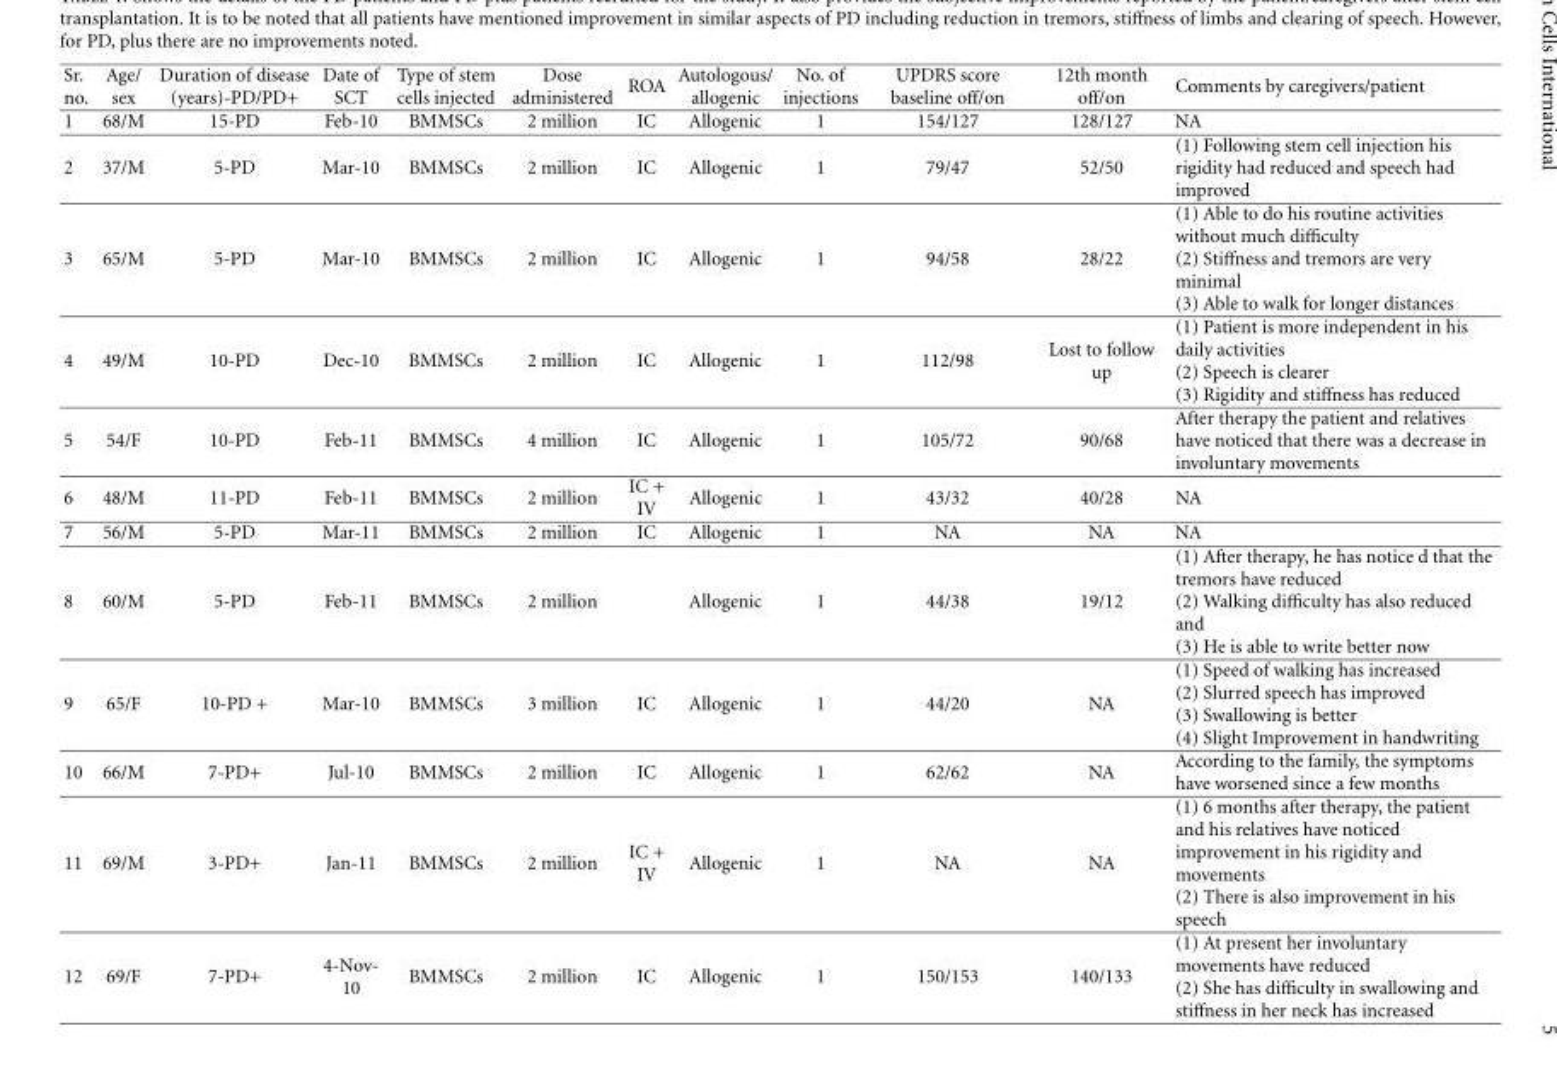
<table><thead><tr><td>Sr. no.</td><td>Age/ sex</td><td>Duration of disease (years)-PD/PD+</td><td>Date of SCT</td><td>Type of stem cells injected</td><td>Dose administered</td><td>ROA</td><td>Autologous/ allogenic</td><td>No. of injections</td><td>UPDRS score baseline off/on</td><td>12th month off/on</td><td>Comments by caregivers/patient</td></tr></thead><tbody><tr><td>1</td><td>68/M</td><td>15-PD</td><td>Feb-10</td><td>BMMSCs</td><td>2 million</td><td>IC</td><td>Allogenic</td><td>1</td><td>154/127</td><td>128/127</td><td>NA</td></tr><tr><td>2</td><td>37/M</td><td>5-PD</td><td>Mar-10</td><td>BMMSCs</td><td>2 million</td><td>IC</td><td>Allogenic</td><td>1</td><td>79/47</td><td>52/50</td><td>(1) Following stem cell injection his rigidity had reduced and speech had improved</td></tr><tr><td>3</td><td>65/M</td><td>5-PD</td><td>Mar-10</td><td>BMMSCs</td><td>2 million</td><td>IC</td><td>Allogenic</td><td>1</td><td>94/58</td><td>28/22</td><td>(1) Able to do his routine activities without much difficulty (2) Stiffness and tremors are very minimal (3) Able to walk for longer distances</td></tr><tr><td>4</td><td>49/M</td><td>10-PD</td><td>Dec-10</td><td>BMMSCs</td><td>2 million</td><td>IC</td><td>Allogenic</td><td>1</td><td>112/98</td><td>Lost to follow up</td><td>(1) Patient is more independent in his daily activities (2) Speech is clearer (3) Rigidity and stiffness has reduced</td></tr><tr><td>5</td><td>54/F</td><td>10-PD</td><td>Feb-11</td><td>BMMSCs</td><td>4 million</td><td>IC</td><td>Allogenic</td><td>1</td><td>105/72</td><td>90/68</td><td>After therapy the patient and relatives have noticed that there was a decrease in involuntary movements</td></tr><tr><td>6</td><td>48/M</td><td>11-PD</td><td>Feb-11</td><td>BMMSCs</td><td>2 million</td><td>IC + IV</td><td>Allogenic</td><td>1</td><td>43/32</td><td>40/28</td><td>NA</td></tr><tr><td>7</td><td>56/M</td><td>5-PD</td><td>Mar-11</td><td>BMMSCs</td><td>2 million</td><td>IC</td><td>Allogenic</td><td>1</td><td>NA</td><td>NA</td><td>NA</td></tr><tr><td>8</td><td>60/M</td><td>5-PD</td><td>Feb-11</td><td>BMMSCs</td><td>2 million</td><td></td><td>Allogenic</td><td>1</td><td>44/38</td><td>19/12</td><td>(1) After therapy, he has notice d that the tremors have reduced (2) Walking difficulty has also reduced and (3) He is able to write better now</td></tr><tr><td>9</td><td>65/F</td><td>10-PD +</td><td>Mar-10</td><td>BMMSCs</td><td>3 million</td><td>IC</td><td>Allogenic</td><td>1</td><td>44/20</td><td>NA</td><td>(1) Speed of walking has increased (2) Slurred speech has improved (3) Swallowing is better (4) Slight Improvement in handwriting</td></tr><tr><td>10</td><td>66/M</td><td>7-PD+</td><td>Jul-10</td><td>BMMSCs</td><td>2 million</td><td>IC</td><td>Allogenic</td><td>1</td><td>62/62</td><td>NA</td><td>According to the family, the symptoms have worsened since a few months</td></tr><tr><td>11</td><td>69/M</td><td>3-PD+</td><td>Jan-11</td><td>BMMSCs</td><td>2 million</td><td>IC + IV</td><td>Allogenic</td><td>1</td><td>NA</td><td>NA</td><td>(1) 6 months after therapy, the patient and his relatives have noticed improvement in his rigidity and movements (2) There is also improvement in his speech</td></tr><tr><td>12</td><td>69/F</td><td>7-PD+</td><td>4-Nov- 10</td><td>BMMSCs</td><td>2 million</td><td>IC</td><td>Allogenic</td><td>1</td><td>150/153</td><td>140/133</td><td>(1) At present her involuntary movements have reduced (2) She has difficulty in swallowing and stiffness in her neck has increased</td></tr></tbody></table>